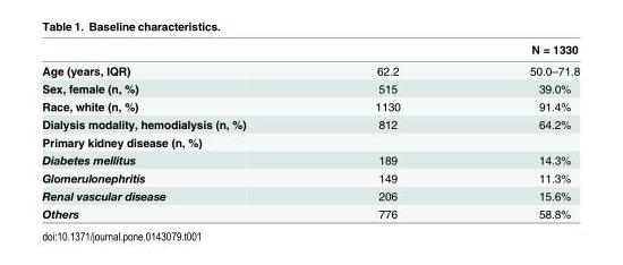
<table><thead><tr><td></td><td></td><td>N = 1330</td></tr></thead><tbody><tr><td>Age (years, IQR)</td><td>62.2</td><td>50.0–71.8</td></tr><tr><td>Sex, female (n, %)</td><td>515</td><td>39.0%</td></tr><tr><td>Race, white (n, %)</td><td>1130</td><td>91.4%</td></tr><tr><td>Dialysis modality, hemodialysis (n, %)</td><td>812</td><td>64.2%</td></tr><tr><td colspan="3">Primary kidney disease (n, %)</td></tr><tr><td>Diabetes mellitus</td><td>189</td><td>14.3%</td></tr><tr><td>Glomerulonephritis</td><td>149</td><td>11.3%</td></tr><tr><td>Renal vascular disease</td><td>206</td><td>15.6%</td></tr><tr><td>Others</td><td>776</td><td>58.8%</td></tr></tbody></table>